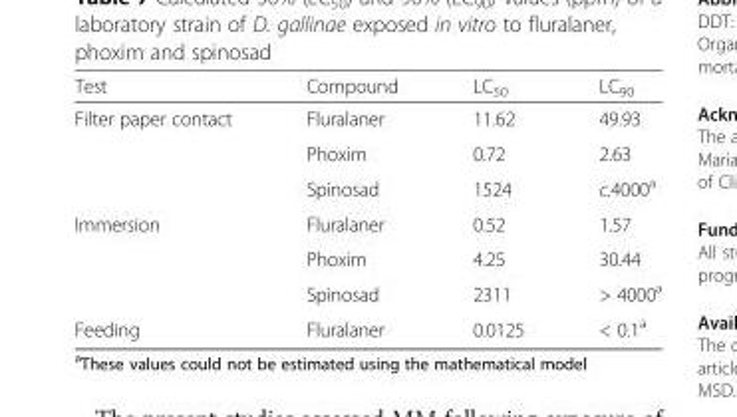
<table><thead><tr><td>Test</td><td>Compound</td><td>LC<sub>50</sub></td><td>LC<sub>90</sub></td></tr></thead><tbody><tr><td rowspan="3">Filter paper contact</td><td>Fluralaner</td><td>11.62</td><td>49.93</td></tr><tr><td>Phoxim</td><td>0.72</td><td>2.63</td></tr><tr><td>Spinosad</td><td>1524</td><td>c.4000<sup>a</sup></td></tr><tr><td rowspan="3">Immersion</td><td>Fluralaner</td><td>0.52</td><td>1.57</td></tr><tr><td>Phoxim</td><td>4.25</td><td>30.44</td></tr><tr><td>Spinosad</td><td>2311</td><td>&gt; 4000<sup>a</sup></td></tr><tr><td>Feeding</td><td>Fluralaner</td><td>0.0125</td><td>&lt; 0.1<sup>a</sup></td></tr></tbody></table>